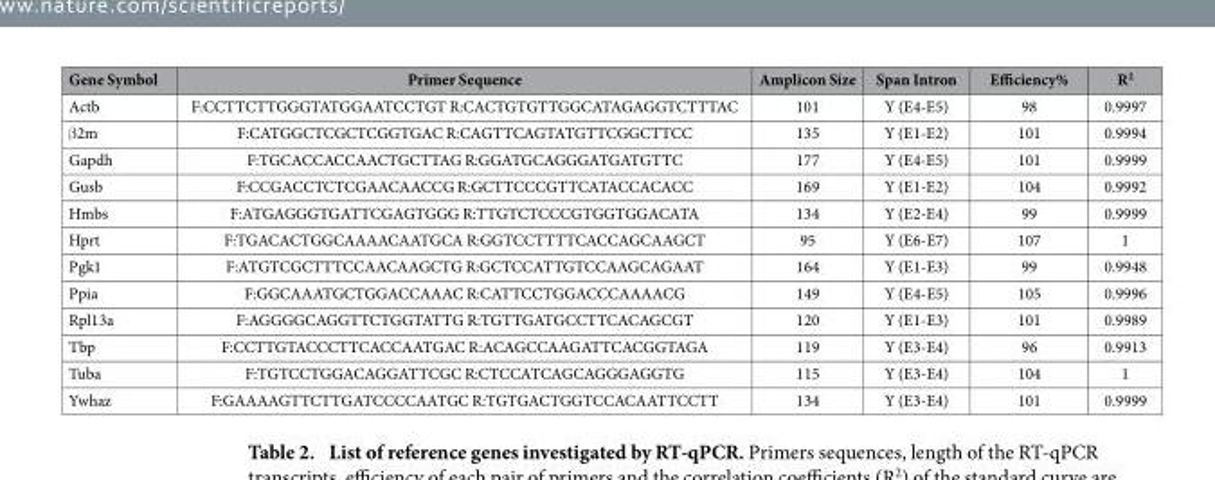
<table><thead><tr><td>Gene Symbol</td><td>Primer Sequence</td><td>Amplicon Size</td><td>Span Intron</td><td>Efficiency%</td><td>R<sup>2</sup></td></tr></thead><tbody><tr><td>Actb</td><td>F:CCTTCTTGGGTATGGAATCCTGT R:CACTGTGTTGGCATAGAGGTCTTTAC</td><td>101</td><td>Y (E4-E5)</td><td>98</td><td>0.9997</td></tr><tr><td>β 2m</td><td>F:CATGGCTCGCTCGGTGAC R:CAGTTCAGTATGTTCGGCTTCC</td><td>135</td><td>Y (E1-E2)</td><td>101</td><td>0.9994</td></tr><tr><td>Gapdh</td><td>F:TGCACCACCAACTGCTTAG R:GGATGCAGGGATGATGTTC</td><td>177</td><td>Y (E4-E5)</td><td>101</td><td>0.9999</td></tr><tr><td>Gusb</td><td>F:CCGACCTCTCGAACAACCG R:GCTTCCCGTTCATACCACACC</td><td>169</td><td>Y (E1-E2)</td><td>104</td><td>0.9992</td></tr><tr><td>Hmbs</td><td>F:ATGAGGGTGATTCGAGTGGG R:TTGTCTCCCGTGGTGGACATA</td><td>134</td><td>Y (E2-E4)</td><td>99</td><td>0.9999</td></tr><tr><td>Hprt</td><td>F:TGACACTGGCAAAACAATGCA R:GGTCCTTTTCACCAGCAAGCT</td><td>95</td><td>Y (E6-E7)</td><td>107</td><td>1</td></tr><tr><td>Pgk1</td><td>F:ATGTCGCTTTCCAACAAGCTG R:GCTCCATTGTCCAAGCAGAAT</td><td>164</td><td>Y (E1-E3)</td><td>99</td><td>0.9948</td></tr><tr><td>Ppia</td><td>F:GGCAAATGCTGGACCAAAC R:CATTCCTGGACCCAAAACG</td><td>149</td><td>Y (E4-E5)</td><td>105</td><td>0.9996</td></tr><tr><td>Rpl13a</td><td>F:AGGGGCAGGTTCTGGTATTG R:TGTTGATGCCTTCACAGCGT</td><td>120</td><td>Y (E1-E3)</td><td>101</td><td>0.9989</td></tr><tr><td>Tbp</td><td>F:CCTTGTACCCTTCACCAATGAC R:ACAGCCAAGATTCACGGTAGA</td><td>119</td><td>Y (E3-E4)</td><td>96</td><td>0.9913</td></tr><tr><td>Tuba</td><td>F:TGTCCTGGACAGGATTCGC R:CTCCATCAGCAGGGAGGTG</td><td>115</td><td>Y (E3-E4)</td><td>104</td><td>1</td></tr><tr><td>Ywhaz</td><td>F:GAAAAGTTCTTGATCCCCAATGC R:TGTGACTGGTCCACAATTCCTT</td><td>134</td><td>Y (E3-E4)</td><td>101</td><td>0.9999</td></tr></tbody></table>